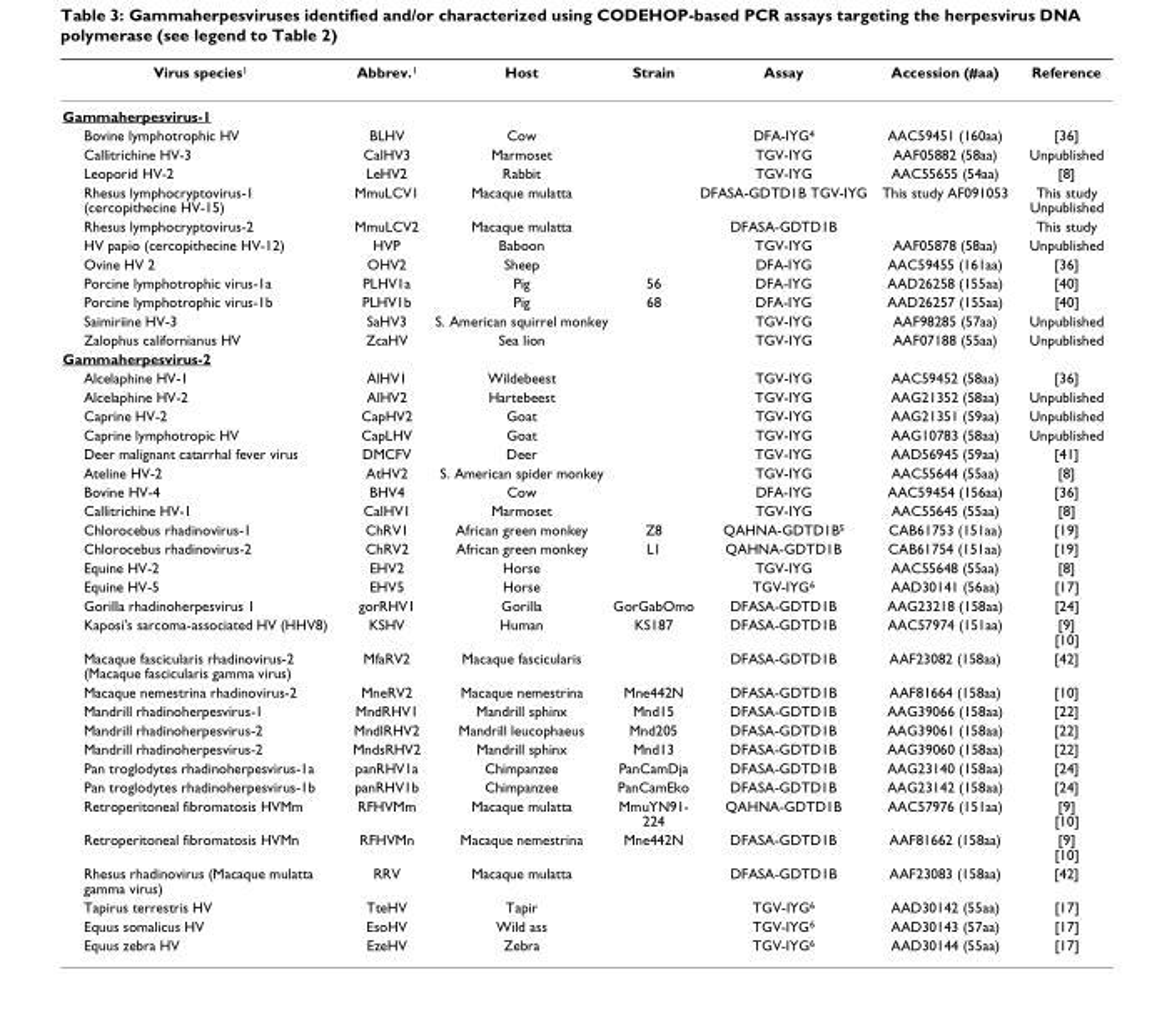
<table><thead><tr><td>Virus species<sup>1</sup></td><td>Abbrev.<sup>1</sup></td><td>Host</td><td>Strain</td><td>Assay</td><td>Accession (#aa)</td><td>Reference</td></tr></thead><tbody><tr><td colspan="7">Gammaherpesvirus-1</td></tr><tr><td>Bovine lymphotrophic HV</td><td>BLHV</td><td>Cow</td><td></td><td>DFA-IYG<sup>4</sup></td><td>AAC59451 (160aa)</td><td>[36]</td></tr><tr><td>Callitrichine HV-3</td><td>CalHV3</td><td>Marmoset</td><td></td><td>TGV-IYG</td><td>AAF05882 (58aa)</td><td>Unpublished</td></tr><tr><td>Leoporid HV-2</td><td>LeHV2</td><td>Rabbit</td><td></td><td>TGV-IYG</td><td>AAC55655 (54aa)</td><td>[8]</td></tr><tr><td>Rhesus lymphocryptovirus-1 (cercopithecine HV-15)</td><td>MmuLCV1</td><td>Macaque mulatta</td><td></td><td>DFASA-GDTD1B TGV-IYG</td><td>This study AF091053</td><td>This study Unpublished</td></tr><tr><td>Rhesus lymphocryptovirus-2</td><td>MmuLCV2</td><td>Macaque mulatta</td><td></td><td>DFASA-GDTD1B</td><td></td><td>This study</td></tr><tr><td>HV papio (cercopithecine HV-12)</td><td>HVP</td><td>Baboon</td><td></td><td>TGV-IYG</td><td>AAF05878 (58aa)</td><td>Unpublished</td></tr><tr><td>Ovine HV 2</td><td>OHV2</td><td>Sheep</td><td></td><td>DFA-IYG</td><td>AAC59455 (161aa)</td><td>[36]</td></tr><tr><td>Porcine lymphotrophic virus-1a</td><td>PLHV1a</td><td>Pig</td><td>56</td><td>DFA-IYG</td><td>AAD26258 (155aa)</td><td>[40]</td></tr><tr><td>Porcine lymphotrophic virus-1b</td><td>PLHV1b</td><td>Pig</td><td>68</td><td>DFA-IYG</td><td>AAD26257 (155aa)</td><td>[40]</td></tr><tr><td>Saimiriine HV-3</td><td>SaHV3</td><td>S. American squirrel monkey</td><td></td><td>TGV-IYG</td><td>AAF98285 (57aa)</td><td>Unpublished</td></tr><tr><td>Zalophus californianus HV</td><td>ZcaHV</td><td>Sea lion</td><td></td><td>TGV-IYG</td><td>AAF07188 (55aa)</td><td>Unpublished</td></tr><tr><td colspan="7">Gammaherpesvirus-2</td></tr><tr><td>Alcelaphine HV-1</td><td>AlHV1</td><td>Wildebeest</td><td></td><td>TGV-IYG</td><td>AAC59452 (58aa)</td><td>[36]</td></tr><tr><td>Alcelaphine HV-2</td><td>AlHV2</td><td>Hartebeest</td><td></td><td>TGV-IYG</td><td>AAG21352 (58aa)</td><td>Unpublished</td></tr><tr><td>Caprine HV-2</td><td>CapHV2</td><td>Goat</td><td></td><td>TGV-IYG</td><td>AAG21351 (59aa)</td><td>Unpublished</td></tr><tr><td>Caprine lymphotropic HV</td><td>CapLHV</td><td>Goat</td><td></td><td>TGV-IYG</td><td>AAG10783 (58aa)</td><td>Unpublished</td></tr><tr><td>Deer malignant catarrhal fever virus</td><td>DMCFV</td><td>Deer</td><td></td><td>TGV-IYG</td><td>AAD56945 (59aa)</td><td>[41]</td></tr><tr><td>Ateline HV-2</td><td>AtHV2</td><td>S. American spider monkey</td><td></td><td>TGV-IYG</td><td>AAC55644 (55aa)</td><td>[8]</td></tr><tr><td>Bovine HV-4</td><td>BHV4</td><td>Cow</td><td></td><td>DFA-IYG</td><td>AAC59454 (156aa)</td><td>[36]</td></tr><tr><td>Callitrichine HV-1</td><td>CalHV1</td><td>Marmoset</td><td></td><td>TGV-IYG</td><td>AAC55645 (55aa)</td><td>[8]</td></tr><tr><td>Chlorocebus rhadinovirus-1</td><td>ChRV1</td><td>African green monkey</td><td>Z8</td><td>QAHNA-GDTD1B<sup>5</sup></td><td>CAB61753 (151aa)</td><td>[19]</td></tr><tr><td>Chlorocebus rhadinovirus-2</td><td>ChRV2</td><td>African green monkey</td><td>L1</td><td>QAHNA-GDTD1B</td><td>CAB61754 (151aa)</td><td>[19]</td></tr><tr><td>Equine HV-2</td><td>EHV2</td><td>Horse</td><td></td><td>TGV-IYG</td><td>AAC55648 (55aa)</td><td>[8]</td></tr><tr><td>Equine HV-5</td><td>EHV5</td><td>Horse</td><td></td><td>TGV-IYG<sup>6</sup></td><td>AAD30141 (56aa)</td><td>[17]</td></tr><tr><td>Gorilla rhadinoherpesvirus 1</td><td>gorRHV1</td><td>Gorilla</td><td>GorGabOmo</td><td>DFASA-GDTD1B</td><td>AAG23218 (158aa)</td><td>[24]</td></tr><tr><td>Kaposi&#x27;s sarcoma-associated HV (HHV8)</td><td>KSHV</td><td>Human</td><td>KS187</td><td>DFASA-GDTD1B</td><td>AAC57974 (151aa)</td><td>[9] [10]</td></tr><tr><td>Macaque fascicularis rhadinovirus-2 (Macaque fascicularis gamma virus)</td><td>MfaRV2</td><td>Macaque fascicularis</td><td></td><td>DFASA-GDTD1B</td><td>AAF23082 (158aa)</td><td>[42]</td></tr><tr><td>Macaque nemestrina rhadinovirus-2</td><td>MneRV2</td><td>Macaque nemestrina</td><td>Mne442N</td><td>DFASA-GDTD1B</td><td>AAF81664 (158aa)</td><td>[10]</td></tr><tr><td>Mandrill rhadinoherpesvirus-1</td><td>MndRHV1</td><td>Mandrill sphinx</td><td>Mnd15</td><td>DFASA-GDTD1B</td><td>AAG39066 (158aa)</td><td>[22]</td></tr><tr><td>Mandrill rhadinoherpesvirus-2</td><td>MndlRHV2</td><td>Mandrill leucophaeus</td><td>Mnd205</td><td>DFASA-GDTD1B</td><td>AAG39061 (158aa)</td><td>[22]</td></tr><tr><td>Mandrill rhadinoherpesvirus-2</td><td>MndsRHV2</td><td>Mandrill sphinx</td><td>Mnd13</td><td>DFASA-GDTD1B</td><td>AAG39060 (158aa)</td><td>[22]</td></tr><tr><td>Pan troglodytes rhadinoherpesvirus-1a</td><td>panRHV1a</td><td>Chimpanzee</td><td>PanCamDja</td><td>DFASA-GDTD1B</td><td>AAG23140 (158aa)</td><td>[24]</td></tr><tr><td>Pan troglodytes rhadinoherpesvirus-1b</td><td>panRHV1b</td><td>Chimpanzee</td><td>PanCamEko</td><td>DFASA-GDTD1B</td><td>AAG23142 (158aa)</td><td>[24]</td></tr><tr><td>Retroperitoneal fibromatosis HVMm</td><td>RFHVMm</td><td>Macaque mulatta</td><td>MmuYN91- 224</td><td>QAHNA-GDTD1B</td><td>AAC57976 (151aa)</td><td>[9] [10]</td></tr><tr><td>Retroperitoneal fibromatosis HVMn</td><td>RFHVMn</td><td>Macaque nemestrina</td><td>Mne442N</td><td>DFASA-GDTD1B</td><td>AAF81662 (158aa)</td><td>[9] [10]</td></tr><tr><td>Rhesus rhadinovirus (Macaque mulatta gamma virus)</td><td>RRV</td><td>Macaque mulatta</td><td></td><td>DFASA-GDTD1B</td><td>AAF23083 (158aa)</td><td>[42]</td></tr><tr><td>Tapirus terrestris HV</td><td>TteHV</td><td>Tapir</td><td></td><td>TGV-IYG<sup>6</sup></td><td>AAD30142 (55aa)</td><td>[17]</td></tr><tr><td>Equus somalicus HV</td><td>EsoHV</td><td>Wild ass</td><td></td><td>TGV-IYG<sup>6</sup></td><td>AAD30143 (57aa)</td><td>[17]</td></tr><tr><td>Equus zebra HV</td><td>EzeHV</td><td>Zebra</td><td></td><td>TGV-IYG<sup>6</sup></td><td>AAD30144 (55aa)</td><td>[17]</td></tr></tbody></table>